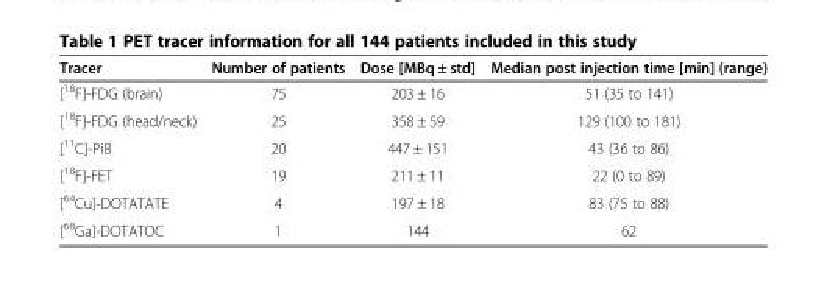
<table><thead><tr><td>Tracer</td><td>Number of patients</td><td>Dose [MBq ± std]</td><td>Median post injection time [min] (range)</td></tr></thead><tbody><tr><td>[<sup>18</sup>F]-FDG (brain)</td><td>75</td><td>203 ± 16</td><td>51 (35 to 141)</td></tr><tr><td>[<sup>18</sup>F]-FDG (head/neck)</td><td>25</td><td>358 ± 59</td><td>129 (100 to 181)</td></tr><tr><td>[<sup>11</sup>C]-PiB</td><td>20</td><td>447 ± 151</td><td>43 (36 to 86)</td></tr><tr><td>[<sup>18</sup>F]-FET</td><td>19</td><td>211 ± 11</td><td>22 (0 to 89)</td></tr><tr><td>[<sup>64</sup>Cu]-DOTATATE</td><td>4</td><td>197 ± 18</td><td>83 (75 to 88)</td></tr><tr><td>[<sup>68</sup>Ga]-DOTATOC</td><td>1</td><td>144</td><td>62</td></tr></tbody></table>